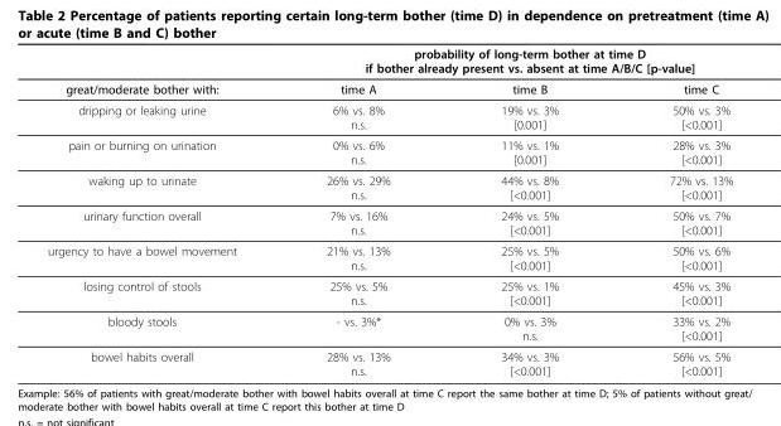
<table><thead><tr><td rowspan="2">great/moderate bother with:</td><td colspan="3">probability of long-term bother at time D if bother already present vs. absent at time A/B/C [p-value]</td></tr><tr><td>time A</td><td>time B</td><td>time C</td></tr></thead><tbody><tr><td>dripping or leaking urine</td><td>6% vs. 8% n.s.</td><td>19% vs. 3% [0.001]</td><td>50% vs. 3% [&lt;0.001]</td></tr><tr><td>pain or burning on urination</td><td>0% vs. 6% n.s.</td><td>11% vs. 1% [0.001]</td><td>28% vs. 3% [&lt;0.001]</td></tr><tr><td>waking up to urinate</td><td>26% vs. 29% n.s.</td><td>44% vs. 8% [&lt;0.001]</td><td>72% vs. 13% [&lt;0.001]</td></tr><tr><td>urinary function overall</td><td>7% vs. 16% n.s.</td><td>24% vs. 5% [&lt;0.001]</td><td>50% vs. 7% [&lt;0.001]</td></tr><tr><td>urgency to have a bowel movement</td><td>21% vs. 13% n.s.</td><td>25% vs. 5% [&lt;0.001]</td><td>50% vs. 6% [&lt;0.001]</td></tr><tr><td>losing control of stools</td><td>25% vs. 5% n.s.</td><td>25% vs. 1% [&lt;0.001]</td><td>45% vs. 3% [&lt;0.001]</td></tr><tr><td>bloody stools</td><td>- vs. 3%*</td><td>0% vs. 3% n.s.</td><td>33% vs. 2% [&lt;0.001]</td></tr><tr><td>bowel habits overall</td><td>28% vs. 13% n.s.</td><td>34% vs. 3% [&lt;0.001]</td><td>56% vs. 5% [&lt;0.001]</td></tr></tbody></table>